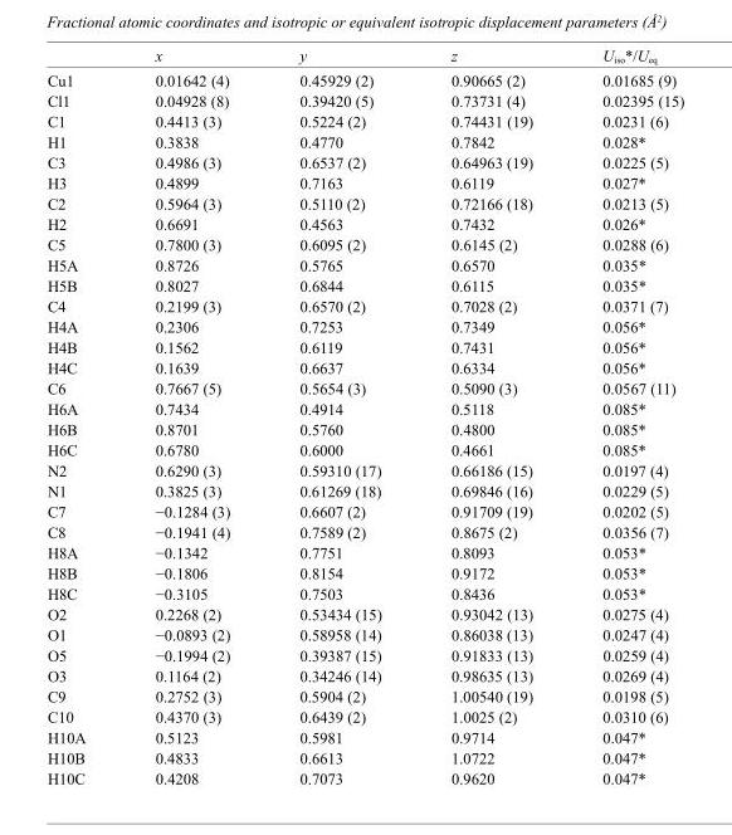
<table><thead><tr><td></td><td>x</td><td>y</td><td>z</td><td>U<sub>iso</sub>*/U<sub>eq</sub></td></tr></thead><tbody><tr><td>Cu1</td><td>0.01642 (4)</td><td>0.45929 (2)</td><td>0.90665 (2)</td><td>0.01685 (9)</td></tr><tr><td>Cl1</td><td>0.04928 (8)</td><td>0.39420 (5)</td><td>0.73731 (4)</td><td>0.02395 (15)</td></tr><tr><td>C1</td><td>0.4413 (3)</td><td>0.5224 (2)</td><td>0.74431 (19)</td><td>0.0231 (6)</td></tr><tr><td>H1</td><td>0.3838</td><td>0.4770</td><td>0.7842</td><td>0.028*</td></tr><tr><td>C3</td><td>0.4986 (3)</td><td>0.6537 (2)</td><td>0.64963 (19)</td><td>0.0225 (5)</td></tr><tr><td>H3</td><td>0.4899</td><td>0.7163</td><td>0.6119</td><td>0.027*</td></tr><tr><td>C2</td><td>0.5964 (3)</td><td>0.5110 (2)</td><td>0.72166 (18)</td><td>0.0213 (5)</td></tr><tr><td>H2</td><td>0.6691</td><td>0.4563</td><td>0.7432</td><td>0.026*</td></tr><tr><td>C5</td><td>0.7800 (3)</td><td>0.6095 (2)</td><td>0.6145 (2)</td><td>0.0288 (6)</td></tr><tr><td>H5A</td><td>0.8726</td><td>0.5765</td><td>0.6570</td><td>0.035*</td></tr><tr><td>H5B</td><td>0.8027</td><td>0.6844</td><td>0.6115</td><td>0.035*</td></tr><tr><td>C4</td><td>0.2199 (3)</td><td>0.6570 (2)</td><td>0.7028 (2)</td><td>0.0371 (7)</td></tr><tr><td>H4A</td><td>0.2306</td><td>0.7253</td><td>0.7349</td><td>0.056*</td></tr><tr><td>H4B</td><td>0.1562</td><td>0.6119</td><td>0.7431</td><td>0.056*</td></tr><tr><td>H4C</td><td>0.1639</td><td>0.6637</td><td>0.6334</td><td>0.056*</td></tr><tr><td>C6</td><td>0.7667 (5)</td><td>0.5654 (3)</td><td>0.5090 (3)</td><td>0.0567 (11)</td></tr><tr><td>H6A</td><td>0.7434</td><td>0.4914</td><td>0.5118</td><td>0.085*</td></tr><tr><td>H6B</td><td>0.8701</td><td>0.5760</td><td>0.4800</td><td>0.085*</td></tr><tr><td>H6C</td><td>0.6780</td><td>0.6000</td><td>0.4661</td><td>0.085*</td></tr><tr><td>N2</td><td>0.6290 (3)</td><td>0.59310 (17)</td><td>0.66186 (15)</td><td>0.0197 (4)</td></tr><tr><td>N1</td><td>0.3825 (3)</td><td>0.61269 (18)</td><td>0.69846 (16)</td><td>0.0229 (5)</td></tr><tr><td>C7</td><td>−0.1284 (3)</td><td>0.6607 (2)</td><td>0.91709 (19)</td><td>0.0202 (5)</td></tr><tr><td>C8</td><td>−0.1941 (4)</td><td>0.7589 (2)</td><td>0.8675 (2)</td><td>0.0356 (7)</td></tr><tr><td>H8A</td><td>−0.1342</td><td>0.7751</td><td>0.8093</td><td>0.053*</td></tr><tr><td>H8B</td><td>−0.1806</td><td>0.8154</td><td>0.9172</td><td>0.053*</td></tr><tr><td>H8C</td><td>−0.3105</td><td>0.7503</td><td>0.8436</td><td>0.053*</td></tr><tr><td>O2</td><td>0.2268 (2)</td><td>0.53434 (15)</td><td>0.93042 (13)</td><td>0.0275 (4)</td></tr><tr><td>O1</td><td>−0.0893 (2)</td><td>0.58958 (14)</td><td>0.86038 (13)</td><td>0.0247 (4)</td></tr><tr><td>O5</td><td>−0.1994 (2)</td><td>0.39387 (15)</td><td>0.91833 (13)</td><td>0.0259 (4)</td></tr><tr><td>O3</td><td>0.1164 (2)</td><td>0.34246 (14)</td><td>0.98635 (13)</td><td>0.0269 (4)</td></tr><tr><td>C9</td><td>0.2752 (3)</td><td>0.5904 (2)</td><td>1.00540 (19)</td><td>0.0198 (5)</td></tr><tr><td>C10</td><td>0.4370 (3)</td><td>0.6439 (2)</td><td>1.0025 (2)</td><td>0.0310 (6)</td></tr><tr><td>H10A</td><td>0.5123</td><td>0.5981</td><td>0.9714</td><td>0.047*</td></tr><tr><td>H10B</td><td>0.4833</td><td>0.6613</td><td>1.0722</td><td>0.047*</td></tr><tr><td>H10C</td><td>0.4208</td><td>0.7073</td><td>0.9620</td><td>0.047*</td></tr></tbody></table>